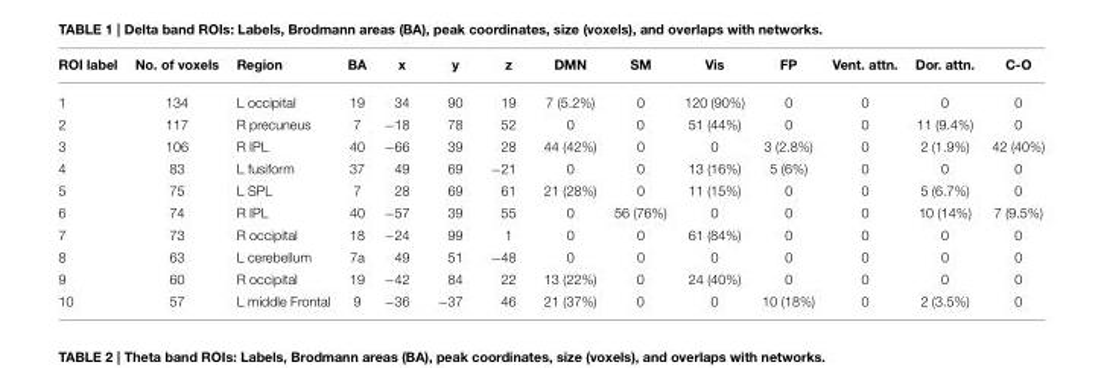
<table><thead><tr><td>ROI label</td><td>No. of voxels</td><td>Region</td><td>BA</td><td>x</td><td>y</td><td>z</td><td>DMN</td><td>SM</td><td>Vis</td><td>FP</td><td>Vent. attn.</td><td>Dor. attn.</td><td>C-O</td></tr></thead><tbody><tr><td>1</td><td>134</td><td>L occipital</td><td>19</td><td>34</td><td>90</td><td>19</td><td>7 (5.2%)</td><td>0</td><td>120 (90%)</td><td>0</td><td>0</td><td>0</td><td>0</td></tr><tr><td>2</td><td>117</td><td>R precuneus</td><td>7</td><td>−18</td><td>78</td><td>52</td><td>0</td><td>0</td><td>51 (44%)</td><td>0</td><td>0</td><td>11 (9.4%)</td><td>0</td></tr><tr><td>3</td><td>106</td><td>R IPL</td><td>40</td><td>−66</td><td>39</td><td>28</td><td>44 (42%)</td><td>0</td><td>0</td><td>3 (2.8%)</td><td>0</td><td>2 (1.9%)</td><td>42 (40%)</td></tr><tr><td>4</td><td>83</td><td>L fusiform</td><td>37</td><td>49</td><td>69</td><td>−21</td><td>0</td><td>0</td><td>13 (16%)</td><td>5 (6%)</td><td>0</td><td>0</td><td>0</td></tr><tr><td>5</td><td>75</td><td>L SPL</td><td>7</td><td>28</td><td>69</td><td>61</td><td>21 (28%)</td><td>0</td><td>11 (15%)</td><td>0</td><td>0</td><td>5 (6.7%)</td><td>0</td></tr><tr><td>6</td><td>74</td><td>R IPL</td><td>40</td><td>−57</td><td>39</td><td>55</td><td>0</td><td>56 (76%)</td><td>0</td><td>0</td><td>0</td><td>10 (14%)</td><td>7 (9.5%)</td></tr><tr><td>7</td><td>73</td><td>R occipital</td><td>18</td><td>−24</td><td>99</td><td>1</td><td>0</td><td>0</td><td>61 (84%)</td><td>0</td><td>0</td><td>0</td><td>0</td></tr><tr><td>8</td><td>63</td><td>L cerebellum</td><td>7a</td><td>49</td><td>51</td><td>−48</td><td>0</td><td>0</td><td>0</td><td>0</td><td>0</td><td>0</td><td>0</td></tr><tr><td>9</td><td>60</td><td>R occipital</td><td>19</td><td>−42</td><td>84</td><td>22</td><td>13 (22%)</td><td>0</td><td>24 (40%)</td><td>0</td><td>0</td><td>0</td><td>0</td></tr><tr><td>10</td><td>57</td><td>L middle Frontal</td><td>9</td><td>−36</td><td>−37</td><td>46</td><td>21 (37%)</td><td>0</td><td>0</td><td>10 (18%)</td><td>0</td><td>2 (3.5%)</td><td>0</td></tr></tbody></table>